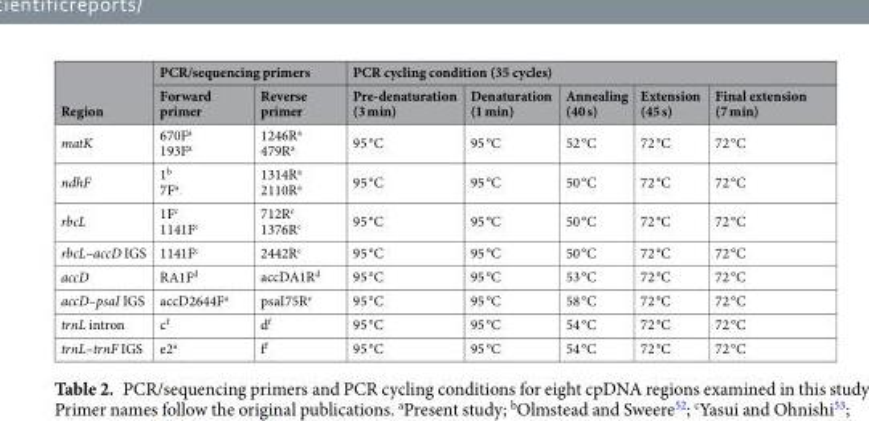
<table><thead><tr><td rowspan="2">Region</td><td colspan="2">PCR/sequencing primers</td><td colspan="5">PCR cycling condition (35 cycles)</td></tr><tr><td>Forward primer</td><td>Reverse primer</td><td>Pre-denaturation (3 min)</td><td>Denaturation (1 min)</td><td>Annealing (40 s)</td><td>Extension (45 s)</td><td>Final extension (7 min)</td></tr></thead><tbody><tr><td>matK</td><td>670F<sup>a</sup> 193F<sup>a</sup></td><td>1246R<sup>a</sup> 479R<sup>a</sup></td><td>95 °C</td><td>95 °C</td><td>52 °C</td><td>72 °C</td><td>72 °C</td></tr><tr><td>ndhF</td><td>1<sup>b</sup> 7F<sup>a</sup></td><td>1314R<sup>a</sup> 2110R<sup>a</sup></td><td>95 °C</td><td>95 °C</td><td>50 °C</td><td>72 °C</td><td>72 °C</td></tr><tr><td>rbcL</td><td>1F<sup>c</sup> 1141F<sup>c</sup></td><td>712R<sup>c</sup> 1376R<sup>c</sup></td><td>95 °C</td><td>95 °C</td><td>50 °C</td><td>72 °C</td><td>72 °C</td></tr><tr><td>rbcL–accD IGS</td><td>1141F<sup>c</sup></td><td>2442R<sup>c</sup></td><td>95 °C</td><td>95 °C</td><td>50 °C</td><td>72 °C</td><td>72 °C</td></tr><tr><td>accD</td><td>RA1F<sup>d</sup></td><td>accDA1R<sup>d</sup></td><td>95 °C</td><td>95 °C</td><td>53 °C</td><td>72 °C</td><td>72 °C</td></tr><tr><td>accD–psaI IGS</td><td>accD2644F<sup>a</sup></td><td>psaI75R<sup>e</sup></td><td>95 °C</td><td>95 °C</td><td>58 °C</td><td>72 °C</td><td>72 °C</td></tr><tr><td>trnL intron</td><td>c<sup>f</sup></td><td>d<sup>f</sup></td><td>95 °C</td><td>95 °C</td><td>54 °C</td><td>72 °C</td><td>72 °C</td></tr><tr><td>trnL–trnF IGS</td><td>e2<sup>a</sup></td><td>f<sup>f</sup></td><td>95 °C</td><td>95 °C</td><td>54 °C</td><td>72 °C</td><td>72 °C</td></tr></tbody></table>